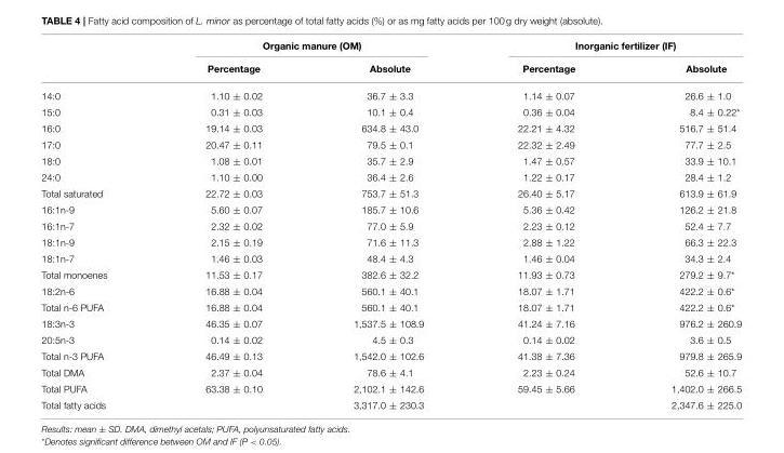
<table><thead><tr><td rowspan="2"></td><td colspan="2">Organic manure (OM)</td><td colspan="2">Inorganic fertilizer (IF)</td></tr><tr><td>Percentage</td><td>Absolute</td><td>Percentage</td><td>Absolute</td></tr></thead><tbody><tr><td>14:0</td><td>1.10 ± 0.02</td><td>36.7 ± 3.3</td><td>1.14 ± 0.07</td><td>26.6 ± 1.0</td></tr><tr><td>15:0</td><td>0.31 ± 0.03</td><td>10.1 ± 0.4</td><td>0.36 ± 0.04</td><td>8.4 ± 0.22*</td></tr><tr><td>16:0</td><td>19.14 ± 0.03</td><td>634.8 ± 43.0</td><td>22.21 ± 4.32</td><td>516.7 ± 51.4</td></tr><tr><td>17:0</td><td>20.47 ± 0.11</td><td>79.5 ± 0.1</td><td>22.32 ± 2.49</td><td>77.7 ± 2.5</td></tr><tr><td>18:0</td><td>1.08 ± 0.01</td><td>35.7 ± 2.9</td><td>1.47 ± 0.57</td><td>33.9 ± 10.1</td></tr><tr><td>24:0</td><td>1.10 ± 0.00</td><td>36.4 ± 2.6</td><td>1.22 ± 0.17</td><td>28.4 ± 1.2</td></tr><tr><td>Total saturated</td><td>22.72 ± 0.03</td><td>753.7 ± 51.3</td><td>26.40 ± 5.17</td><td>613.9 ± 61.9</td></tr><tr><td>16:1n-9</td><td>5.60 ± 0.07</td><td>185.7 ± 10.6</td><td>5.36 ± 0.42</td><td>126.2 ± 21.8</td></tr><tr><td>16:1n-7</td><td>2.32 ± 0.02</td><td>77.0 ± 5.9</td><td>2.23 ± 0.12</td><td>52.4 ± 7.7</td></tr><tr><td>18:1n-9</td><td>2.15 ± 0.19</td><td>71.6 ± 11.3</td><td>2.88 ± 1.22</td><td>66.3 ± 22.3</td></tr><tr><td>18:1n-7</td><td>1.46 ± 0.03</td><td>48.4 ± 4.3</td><td>1.46 ± 0.04</td><td>34.3 ± 2.4</td></tr><tr><td>Total monoenes</td><td>11.53 ± 0.17</td><td>382.6 ± 32.2</td><td>11.93 ± 0.73</td><td>279.2 ± 9.7*</td></tr><tr><td>18:2n-6</td><td>16.88 ± 0.04</td><td>560.1 ± 40.1</td><td>18.07 ± 1.71</td><td>422.2 ± 0.6*</td></tr><tr><td>Total n-6 PUFA</td><td>16.88 ± 0.04</td><td>560.1 ± 40.1</td><td>18.07 ± 1.71</td><td>422.2 ± 0.6*</td></tr><tr><td>18:3n-3</td><td>46.35 ± 0.07</td><td>1,537.5 ± 108.9</td><td>41.24 ± 7.16</td><td>976.2 ± 260.9</td></tr><tr><td>20:5n-3</td><td>0.14 ± 0.02</td><td>4.5 ± 0.3</td><td>0.14 ± 0.02</td><td>3.6 ± 0.5</td></tr><tr><td>Total n-3 PUFA</td><td>46.49 ± 0.13</td><td>1,542.0 ± 102.6</td><td>41.38 ± 7.36</td><td>979.8 ± 265.9</td></tr><tr><td>Total DMA</td><td>2.37 ± 0.04</td><td>78.6 ± 4.1</td><td>2.23 ± 0.24</td><td>52.6 ± 10.7</td></tr><tr><td>Total PUFA</td><td>63.38 ± 0.10</td><td>2,102.1 ± 142.6</td><td>59.45 ± 5.66</td><td>1,402.0 ± 266.5</td></tr><tr><td>Total fatty acids</td><td></td><td>3,317.0 ± 230.3</td><td></td><td>2,347.6 ± 225.0</td></tr></tbody></table>